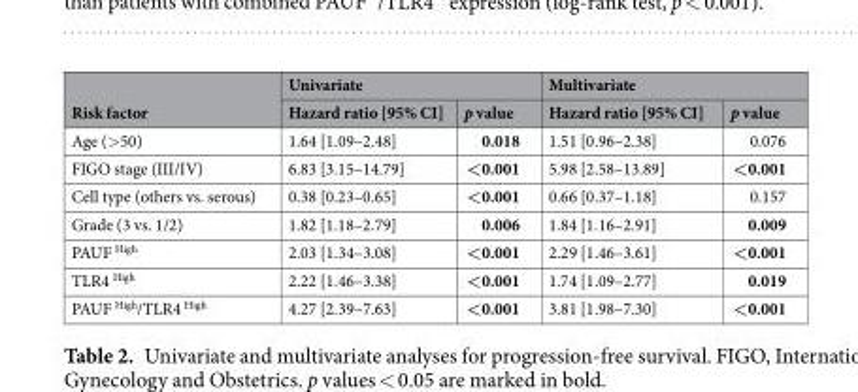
<table><thead><tr><td rowspan="2">Risk factor</td><td colspan="2">Univariate</td><td colspan="2">Multivariate</td></tr><tr><td>Hazard ratio [95% CI]</td><td>p value</td><td>Hazard ratio [95% CI]</td><td>p value</td></tr></thead><tbody><tr><td>Age (&gt;50)</td><td>1.64 [1.09–2.48]</td><td>0.018</td><td>1.51 [0.96–2.38]</td><td>0.076</td></tr><tr><td>FIGO stage (III/IV)</td><td>6.83 [3.15–14.79]</td><td>&lt;0.001</td><td>5.98 [2.58–13.89]</td><td>&lt;0.001</td></tr><tr><td>Cell type (others vs. serous)</td><td>0.38 [0.23–0.65]</td><td>&lt;0.001</td><td>0.66 [0.37–1.18]</td><td>0.157</td></tr><tr><td>Grade (3 vs. 1/2)</td><td>1.82 [1.18–2.79]</td><td>0.006</td><td>1.84 [1.16–2.91]</td><td>0.009</td></tr><tr><td>PAUF <sup>High</sup></td><td>2.03 [1.34–3.08]</td><td>&lt;0.001</td><td>2.29 [1.46–3.61]</td><td>&lt;0.001</td></tr><tr><td>TLR4 <sup>High</sup></td><td>2.22 [1.46–3.38]</td><td>&lt;0.001</td><td>1.74 [1.09–2.77]</td><td>0.019</td></tr><tr><td>PAUF <sup>High</sup>/TLR4 <sup>High</sup></td><td>4.27 [2.39–7.63]</td><td>&lt;0.001</td><td>3.81 [1.98–7.30]</td><td>&lt;0.001</td></tr></tbody></table>